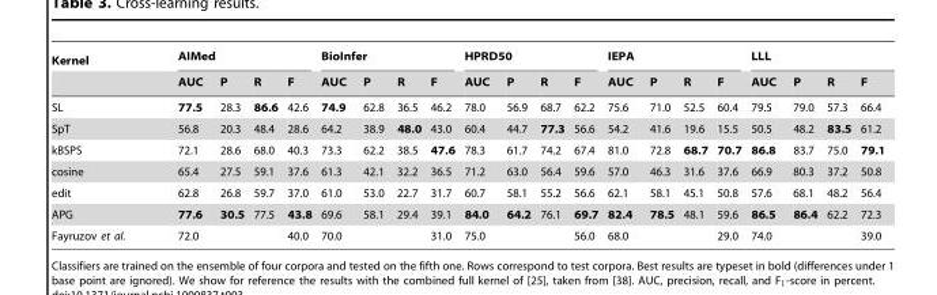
<table><thead><tr><td rowspan="2">Kernel</td><td colspan="4">AIMed</td><td colspan="4">BioInfer</td><td colspan="4">HPRD50</td><td colspan="4">IEPA</td><td colspan="4">LLL</td></tr><tr><td>AUC</td><td>P</td><td>R</td><td>F</td><td>AUC</td><td>P</td><td>R</td><td>F</td><td>AUC</td><td>P</td><td>R</td><td>F</td><td>AUC</td><td>P</td><td>R</td><td>F</td><td>AUC</td><td>P</td><td>R</td><td>F</td></tr></thead><tbody><tr><td>SL</td><td>77.5</td><td>28.3</td><td>86.6</td><td>42.6</td><td>74.9</td><td>62.8</td><td>36.5</td><td>46.2</td><td>78.0</td><td>56.9</td><td>68.7</td><td>62.2</td><td>75.6</td><td>71.0</td><td>52.5</td><td>60.4</td><td>79.5</td><td>79.0</td><td>57.3</td><td>66.4</td></tr><tr><td>SpT</td><td>56.8</td><td>20.3</td><td>48.4</td><td>28.6</td><td>64.2</td><td>38.9</td><td>48.0</td><td>43.0</td><td>60.4</td><td>44.7</td><td>77.3</td><td>56.6</td><td>54.2</td><td>41.6</td><td>19.6</td><td>15.5</td><td>50.5</td><td>48.2</td><td>83.5</td><td>61.2</td></tr><tr><td>kBSPS</td><td>72.1</td><td>28.6</td><td>68.0</td><td>40.3</td><td>73.3</td><td>62.2</td><td>38.5</td><td>47.6</td><td>78.3</td><td>61.7</td><td>74.2</td><td>67.4</td><td>81.0</td><td>72.8</td><td>68.7</td><td>70.7</td><td>86.8</td><td>83.7</td><td>75.0</td><td>79.1</td></tr><tr><td>cosine</td><td>65.4</td><td>27.5</td><td>59.1</td><td>37.6</td><td>61.3</td><td>42.1</td><td>32.2</td><td>36.5</td><td>71.2</td><td>63.0</td><td>56.4</td><td>59.6</td><td>57.0</td><td>46.3</td><td>31.6</td><td>37.6</td><td>66.9</td><td>80.3</td><td>37.2</td><td>50.8</td></tr><tr><td>edit</td><td>62.8</td><td>26.8</td><td>59.7</td><td>37.0</td><td>61.0</td><td>53.0</td><td>22.7</td><td>31.7</td><td>60.7</td><td>58.1</td><td>55.2</td><td>56.6</td><td>62.1</td><td>58.1</td><td>45.1</td><td>50.8</td><td>57.6</td><td>68.1</td><td>48.2</td><td>56.4</td></tr><tr><td>APG</td><td>77.6</td><td>30.5</td><td>77.5</td><td>43.8</td><td>69.6</td><td>58.1</td><td>29.4</td><td>39.1</td><td>84.0</td><td>64.2</td><td>76.1</td><td>69.7</td><td>82.4</td><td>78.5</td><td>48.1</td><td>59.6</td><td>86.5</td><td>86.4</td><td>62.2</td><td>72.3</td></tr><tr><td>Fayruzov et al.</td><td>72.0</td><td></td><td></td><td>40.0</td><td>70.0</td><td></td><td></td><td>31.0</td><td>75.0</td><td></td><td></td><td>56.0</td><td>68.0</td><td></td><td></td><td>29.0</td><td>74.0</td><td></td><td></td><td>39.0</td></tr></tbody></table>